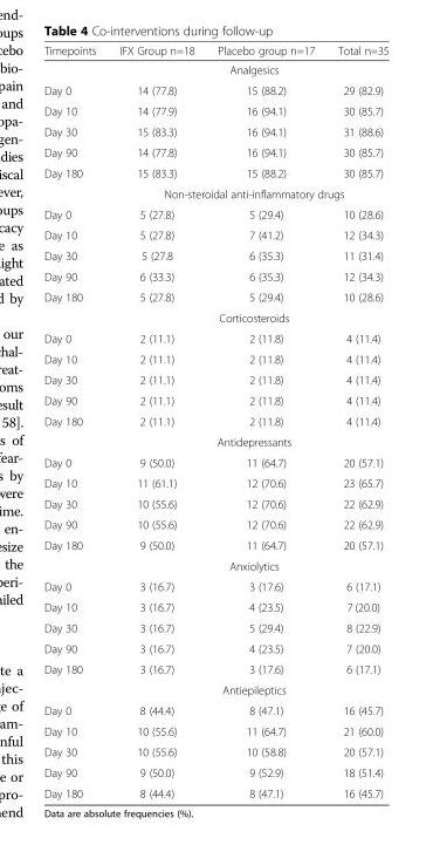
<table><thead><tr><td>Timepoints</td><td>IFX Group n=18</td><td>Placebo group n=17</td><td>Total n=35</td></tr></thead><tbody><tr><td></td><td colspan="3">Analgesics</td></tr><tr><td>Day 0</td><td>14 (77.8)</td><td>15 (88.2)</td><td>29 (82.9)</td></tr><tr><td>Day 10</td><td>14 (77.9)</td><td>16 (94.1)</td><td>30 (85.7)</td></tr><tr><td>Day 30</td><td>15 (83.3)</td><td>16 (94.1)</td><td>31 (88.6)</td></tr><tr><td>Day 90</td><td>14 (77.8)</td><td>16 (94.1)</td><td>30 (85.7)</td></tr><tr><td rowspan="2">Day 180</td><td>15 (83.3)</td><td>15 (88.2)</td><td>30 (85.7)</td></tr><tr><td colspan="3">Non-steroidal anti-inflammatory drugs</td></tr><tr><td>Day 0</td><td>5 (27.8)</td><td>5 (29.4)</td><td>10 (28.6)</td></tr><tr><td>Day 10</td><td>5 (27.8)</td><td>7 (41.2)</td><td>12 (34.3)</td></tr><tr><td>Day 30</td><td>5 (27.8</td><td>6 (35.3)</td><td>11 (31.4)</td></tr><tr><td>Day 90</td><td>6 (33.3)</td><td>6 (35.3)</td><td>12 (34.3)</td></tr><tr><td rowspan="2">Day 180</td><td>5 (27.8)</td><td>5 (29.4)</td><td>10 (28.6)</td></tr><tr><td colspan="3">Corticosteroids</td></tr><tr><td>Day 0</td><td>2 (11.1)</td><td>2 (11.8)</td><td>4 (11.4)</td></tr><tr><td>Day 10</td><td>2 (11.1)</td><td>2 (11.8)</td><td>4 (11.4)</td></tr><tr><td>Day 30</td><td>2 (11.1)</td><td>2 (11.8)</td><td>4 (11.4)</td></tr><tr><td>Day 90</td><td>2 (11.1)</td><td>2 (11.8)</td><td>4 (11.4)</td></tr><tr><td rowspan="2">Day 180</td><td>2 (11.1)</td><td>2 (11.8)</td><td>4 (11.4)</td></tr><tr><td colspan="3">Antidepressants</td></tr><tr><td>Day 0</td><td>9 (50.0)</td><td>11 (64.7)</td><td>20 (57.1)</td></tr><tr><td>Day 10</td><td>11 (61.1)</td><td>12 (70.6)</td><td>23 (65.7)</td></tr><tr><td>Day 30</td><td>10 (55.6)</td><td>12 (70.6)</td><td>22 (62.9)</td></tr><tr><td>Day 90</td><td>10 (55.6)</td><td>12 (70.6)</td><td>22 (62.9)</td></tr><tr><td rowspan="2">Day 180</td><td>9 (50.0)</td><td>11 (64.7)</td><td>20 (57.1)</td></tr><tr><td colspan="3">Anxiolytics</td></tr><tr><td>Day 0</td><td>3 (16.7)</td><td>3 (17.6)</td><td>6 (17.1)</td></tr><tr><td>Day 10</td><td>3 (16.7)</td><td>4 (23.5)</td><td>7 (20.0)</td></tr><tr><td>Day 30</td><td>3 (16.7)</td><td>5 (29.4)</td><td>8 (22.9)</td></tr><tr><td>Day 90</td><td>3 (16.7)</td><td>4 (23.5)</td><td>7 (20.0)</td></tr><tr><td rowspan="2">Day 180</td><td>3 (16.7)</td><td>3 (17.6)</td><td>6 (17.1)</td></tr><tr><td colspan="3">Antiepileptics</td></tr><tr><td>Day 0</td><td>8 (44.4)</td><td>8 (47.1)</td><td>16 (45.7)</td></tr><tr><td>Day 10</td><td>10 (55.6)</td><td>11 (64.7)</td><td>21 (60.0)</td></tr><tr><td>Day 30</td><td>10 (55.6)</td><td>10 (58.8)</td><td>20 (57.1)</td></tr><tr><td>Day 90</td><td>9 (50.0)</td><td>9 (52.9)</td><td>18 (51.4)</td></tr><tr><td>Day 180</td><td>8 (44.4)</td><td>8 (47.1)</td><td>16 (45.7)</td></tr></tbody></table>